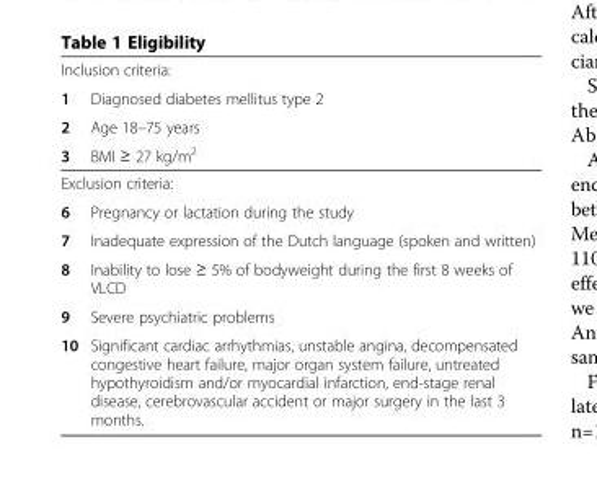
<table><tbody><tr><td colspan="2">Inclusion criteria:</td></tr><tr><td>1</td><td>Diagnosed diabetes mellitus type 2</td></tr><tr><td>2</td><td>Age 18–75 years</td></tr><tr><td>3</td><td>BMI ≥ 27 kg/m<sup>2</sup></td></tr><tr><td colspan="2">Exclusion criteria:</td></tr><tr><td>6</td><td>Pregnancy or lactation during the study</td></tr><tr><td>7</td><td>Inadequate expression of the Dutch language (spoken and written)</td></tr><tr><td>8</td><td>Inability to lose ≥ 5% of bodyweight during the first 8 weeks of VLCD</td></tr><tr><td>9</td><td>Severe psychiatric problems</td></tr><tr><td>10</td><td>Significant cardiac arrhythmias, unstable angina, decompensated congestive heart failure, major organ system failure, untreated hypothyroidism and/or myocardial infarction, end-stage renal disease, cerebrovascular accident or major surgery in the last 3 months.</td></tr></tbody></table>